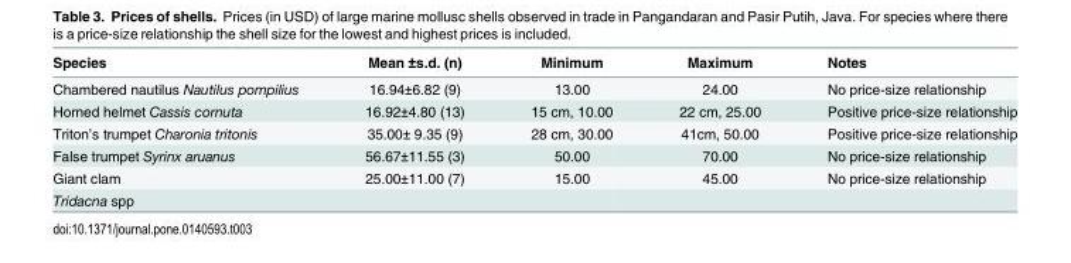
<table><thead><tr><td>Species</td><td>Mean ±s.d. (n)</td><td>Minimum</td><td>Maximum</td><td>Notes</td></tr></thead><tbody><tr><td>Chambered nautilus Nautilus pompilius</td><td>16.94±6.82 (9)</td><td>13.00</td><td>24.00</td><td>No price-size relationship</td></tr><tr><td>Horned helmet Cassis cornuta</td><td>16.92±4.80 (13)</td><td>15 cm, 10.00</td><td>22 cm, 25.00</td><td>Positive price-size relationship</td></tr><tr><td>Triton’s trumpet Charonia tritonis</td><td>35.00± 9.35 (9)</td><td>28 cm, 30.00</td><td>41cm, 50.00</td><td>Positive price-size relationship</td></tr><tr><td>False trumpet Syrinx aruanus</td><td>56.67±11.55 (3)</td><td>50.00</td><td>70.00</td><td>No price-size relationship</td></tr><tr><td>Giant clam</td><td>25.00±11.00 (7)</td><td>15.00</td><td>45.00</td><td>No price-size relationship</td></tr><tr><td>Tridacna spp</td><td></td><td></td><td></td><td></td></tr></tbody></table>